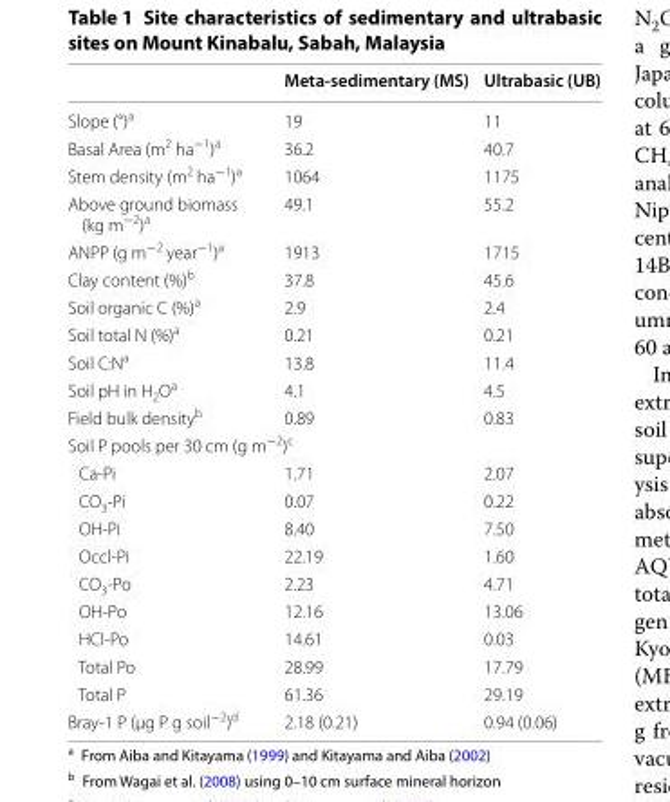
<table><thead><tr><td></td><td>Meta-sedimentary (MS)</td><td>Ultrabasic (UB)</td></tr></thead><tbody><tr><td>Slope (°)<sup>a</sup></td><td>19</td><td>11</td></tr><tr><td>Basal Area (m<sup>2</sup> ha<sup>−1</sup>)<sup>a</sup></td><td>36.2</td><td>40.7</td></tr><tr><td>Stem density (m<sup>2</sup> ha<sup>−1</sup>)<sup>a</sup></td><td>1064</td><td>1175</td></tr><tr><td>Above ground biomass (kg m<sup>−2</sup>)<sup>a</sup></td><td>49.1</td><td>55.2</td></tr><tr><td>ANPP (g m<sup>−2</sup> year<sup>−1</sup>)<sup>a</sup></td><td>1913</td><td>1715</td></tr><tr><td>Clay content (%)<sup>b</sup></td><td>37.8</td><td>45.6</td></tr><tr><td>Soil organic C (%)<sup>a</sup></td><td>2.9</td><td>2.4</td></tr><tr><td>Soil total N (%)<sup>a</sup></td><td>0.21</td><td>0.21</td></tr><tr><td>Soil C:N<sup>a</sup></td><td>13.8</td><td>11.4</td></tr><tr><td>Soil pH in H<sub>2</sub>O<sup>a</sup></td><td>4.1</td><td>4.5</td></tr><tr><td>Field bulk density<sup>b</sup></td><td>0.89</td><td>0.83</td></tr><tr><td colspan="3">Soil P pools per 30 cm (g m<sup>−2</sup>)<sup>c</sup></td></tr><tr><td>Ca-Pi</td><td>1.71</td><td>2.07</td></tr><tr><td>CO<sub>3</sub>-Pi</td><td>0.07</td><td>0.22</td></tr><tr><td>OH-Pi</td><td>8.40</td><td>7.50</td></tr><tr><td>Occl-Pi</td><td>22.19</td><td>1.60</td></tr><tr><td>CO<sub>3</sub>-Po</td><td>2.23</td><td>4.71</td></tr><tr><td>OH-Po</td><td>12.16</td><td>13.06</td></tr><tr><td>HCl-Po</td><td>14.61</td><td>0.03</td></tr><tr><td>Total Po</td><td>28.99</td><td>17.79</td></tr><tr><td>Total P</td><td>61.36</td><td>29.19</td></tr><tr><td>Bray-1 P (μg P g soil<sup>−2</sup>)<sup>d</sup></td><td>2.18 (0.21)</td><td>0.94 (0.06)</td></tr></tbody></table>